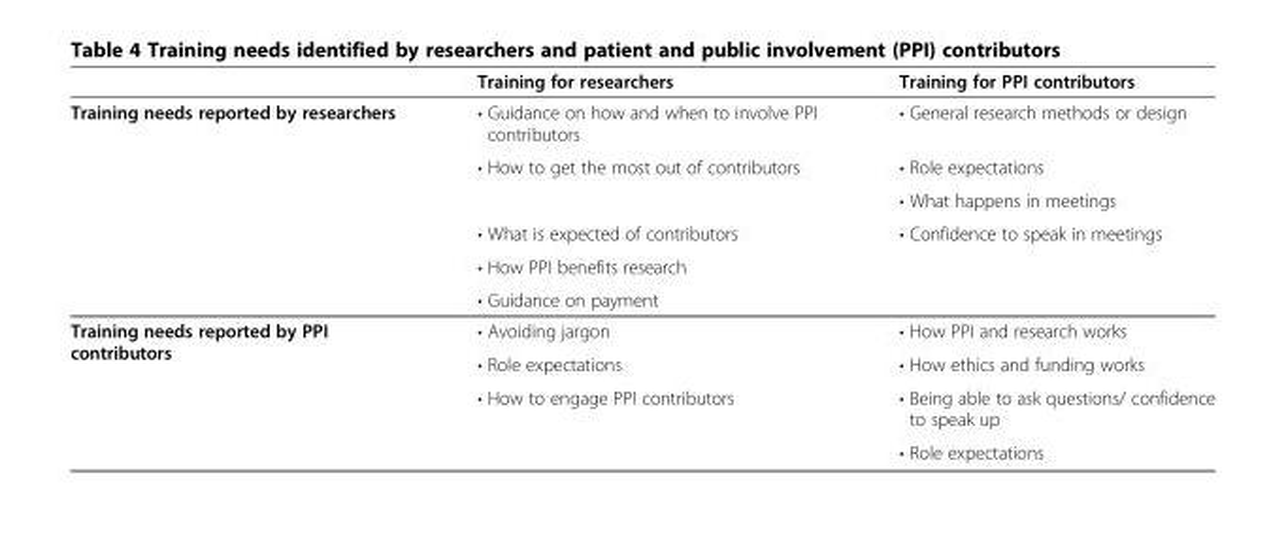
<table><thead><tr><td></td><td>Training for researchers</td><td>Training for PPI contributors</td></tr></thead><tbody><tr><td rowspan="6">Training needs reported by researchers</td><td>• Guidance on how and when to involve PPI contributors</td><td>• General research methods or design</td></tr><tr><td rowspan="2">• How to get the most out of contributors</td><td>• Role expectations</td></tr><tr><td>• What happens in meetings</td></tr><tr><td>• What is expected of contributors</td><td>• Confidence to speak in meetings</td></tr><tr><td>• How PPI benefits research</td><td></td></tr><tr><td>• Guidance on payment</td><td></td></tr><tr><td rowspan="4">Training needs reported by PPI contributors</td><td>• Avoiding jargon</td><td>• How PPI and research works</td></tr><tr><td>• Role expectations</td><td>• How ethics and funding works</td></tr><tr><td rowspan="2">• How to engage PPI contributors</td><td>• Being able to ask questions/ confidence to speak up</td></tr><tr><td>• Role expectations</td></tr></tbody></table>